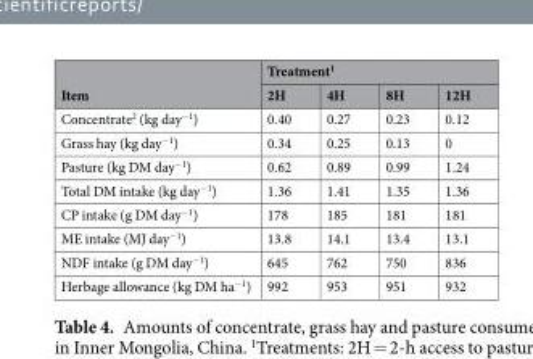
<table><thead><tr><td rowspan="2">Item</td><td colspan="4">Treatment<sup>1</sup></td></tr><tr><td>2H</td><td>4H</td><td>8H</td><td>12H</td></tr></thead><tbody><tr><td>Concentrate<sup>2</sup> (kg day<sup>−1</sup>)</td><td>0.40</td><td>0.27</td><td>0.23</td><td>0.12</td></tr><tr><td>Grass hay (kg day<sup>−1</sup>)</td><td>0.34</td><td>0.25</td><td>0.13</td><td>0</td></tr><tr><td>Pasture (kg DM day<sup>−1</sup>)</td><td>0.62</td><td>0.89</td><td>0.99</td><td>1.24</td></tr><tr><td>Total DM intake (kg day<sup>−1</sup>)</td><td>1.36</td><td>1.41</td><td>1.35</td><td>1.36</td></tr><tr><td>CP intake (g DM day<sup>−1</sup>)</td><td>178</td><td>185</td><td>181</td><td>181</td></tr><tr><td>ME intake (MJ day<sup>−1</sup>)</td><td>13.8</td><td>14.1</td><td>13.4</td><td>13.1</td></tr><tr><td>NDF intake (g DM day<sup>−1</sup>)</td><td>645</td><td>762</td><td>750</td><td>836</td></tr><tr><td>Herbage allowance (kg DM ha<sup>−1</sup>)</td><td>992</td><td>953</td><td>951</td><td>932</td></tr></tbody></table>